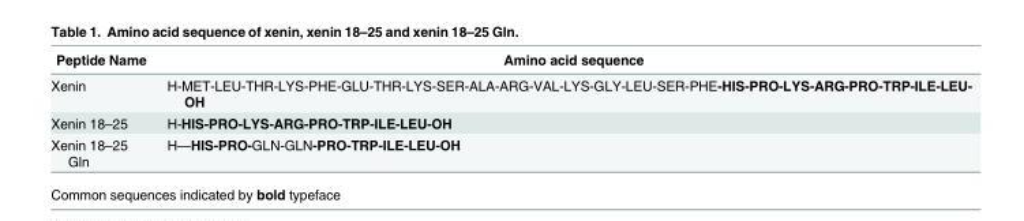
<table><thead><tr><td>Peptide Name</td><td>Amino acid sequence</td></tr></thead><tbody><tr><td>Xenin</td><td>H-MET-LEU-THR-LYS-PHE-GLU-THR-LYS-SER-ALA-ARG-VAL-LYS-GLY-LEU-SER-PHE-HIS-PRO-LYS-ARG-PRO-TRP-ILE-LEU- OH</td></tr><tr><td>Xenin 18–25</td><td>H-HIS-PRO-LYS-ARG-PRO-TRP-ILE-LEU-OH</td></tr><tr><td>Xenin 18–25 Gln</td><td>H—HIS-PRO-GLN-GLN-PRO-TRP-ILE-LEU-OH</td></tr></tbody></table>